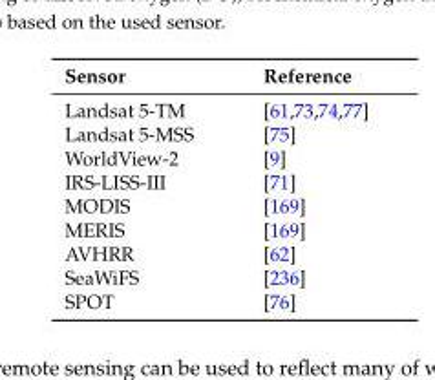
<table><thead><tr><td>Sensor</td><td>Reference</td></tr></thead><tbody><tr><td>Landsat 5-TM</td><td>[61,73,74,77]</td></tr><tr><td>Landsat 5-MSS</td><td>[75]</td></tr><tr><td>WorldView-2</td><td>[9]</td></tr><tr><td>IRS-LISS-III</td><td>[71]</td></tr><tr><td>MODIS</td><td>[169]</td></tr><tr><td>MERIS</td><td>[169]</td></tr><tr><td>AVHRR</td><td>[62]</td></tr><tr><td>SeaWiFS</td><td>[236]</td></tr><tr><td>SPOT</td><td>[76]</td></tr></tbody></table>